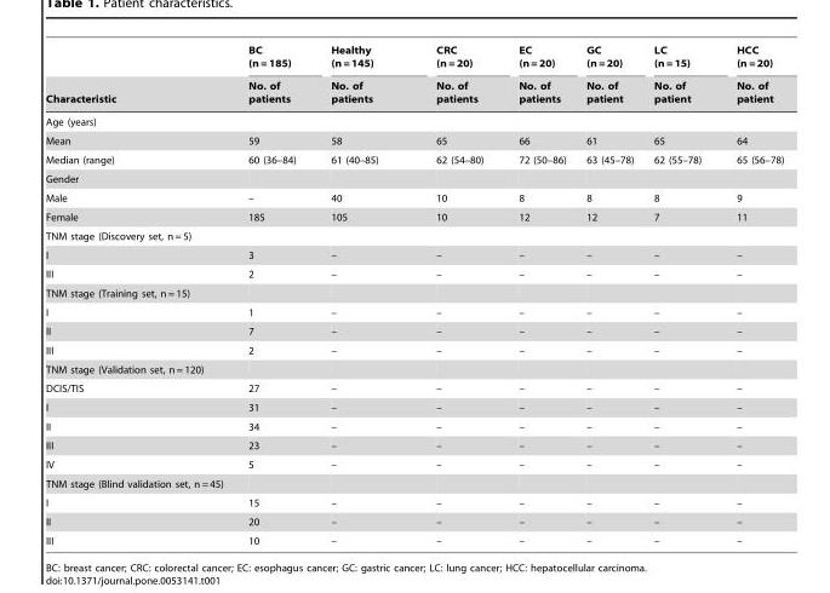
<table><thead><tr><td rowspan="2">Characteristic</td><td rowspan="2">BC (n = 185) No. of patients</td><td rowspan="2">Healthy (n = 145) No. of patients</td><td rowspan="2">CRC (n = 20) No. of patients</td><td rowspan="2">EC (n = 20) No. of patients</td><td rowspan="2">GC (n = 20) No. of patient</td><td rowspan="2">LC (n = 15) No. of patient</td><td rowspan="2">HCC (n = 20) No. of patient</td></tr><tr></tr></thead><tbody><tr><td colspan="8">Age (years)</td></tr><tr><td>Mean</td><td>59</td><td>58</td><td>65</td><td>66</td><td>61</td><td>65</td><td>64</td></tr><tr><td>Median (range)</td><td>60 (36–84)</td><td>61 (40–85)</td><td>62 (54–80)</td><td>72 (50–86)</td><td>63 (45–78)</td><td>62 (55–78)</td><td>65 (56–78)</td></tr><tr><td colspan="8">Gender</td></tr><tr><td>Male</td><td>–</td><td>40</td><td>10</td><td>8</td><td>8</td><td>8</td><td>9</td></tr><tr><td>Female</td><td>185</td><td>105</td><td>10</td><td>12</td><td>12</td><td>7</td><td>11</td></tr><tr><td colspan="8">TNM stage (Discovery set, n = 5)</td></tr><tr><td>I</td><td>3</td><td>–</td><td>–</td><td>–</td><td>–</td><td>–</td><td>–</td></tr><tr><td>III</td><td>2</td><td>–</td><td>–</td><td>–</td><td>–</td><td>–</td><td>–</td></tr><tr><td colspan="8">TNM stage (Training set, n = 15)</td></tr><tr><td>I</td><td>1</td><td>–</td><td>–</td><td>–</td><td>–</td><td>–</td><td>–</td></tr><tr><td>II</td><td>7</td><td>–</td><td>–</td><td>–</td><td>–</td><td>–</td><td>–</td></tr><tr><td>III</td><td>2</td><td>–</td><td>–</td><td>–</td><td>–</td><td>–</td><td>–</td></tr><tr><td colspan="8">TNM stage (Validation set, n = 120)</td></tr><tr><td>DCIS/TIS</td><td>27</td><td>–</td><td>–</td><td>–</td><td>–</td><td>–</td><td>–</td></tr><tr><td>I</td><td>31</td><td>–</td><td>–</td><td>–</td><td>–</td><td>–</td><td>–</td></tr><tr><td>II</td><td>34</td><td>–</td><td>–</td><td>–</td><td>–</td><td>–</td><td>–</td></tr><tr><td>III</td><td>23</td><td>–</td><td>–</td><td>–</td><td>–</td><td>–</td><td>–</td></tr><tr><td>IV</td><td>5</td><td>–</td><td>–</td><td>–</td><td>–</td><td>–</td><td>–</td></tr><tr><td colspan="8">TNM stage (Blind validation set, n = 45)</td></tr><tr><td>I</td><td>15</td><td>–</td><td>–</td><td>–</td><td>–</td><td>–</td><td>–</td></tr><tr><td>II</td><td>20</td><td>–</td><td>–</td><td>–</td><td>–</td><td>–</td><td>–</td></tr><tr><td>III</td><td>10</td><td>–</td><td>–</td><td>–</td><td>–</td><td>–</td><td>–</td></tr></tbody></table>